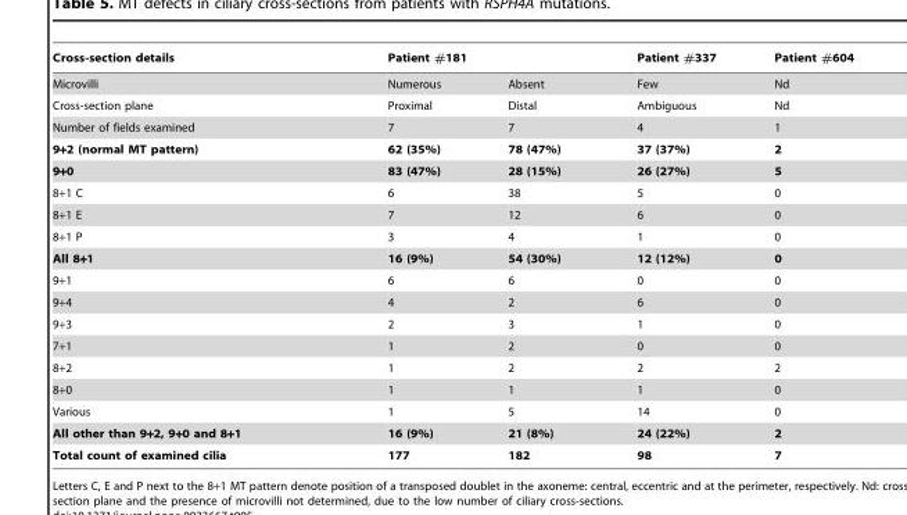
<table><thead><tr><td rowspan="2">Cross-section details Microvilli</td><td colspan="2">Patient #181</td><td rowspan="2">Patient #337 Few</td><td rowspan="2">Patient #604 Nd</td></tr><tr><td>Numerous</td><td>Absent</td></tr></thead><tbody><tr><td>Cross-section plane</td><td>Proximal</td><td>Distal</td><td>Ambiguous</td><td>Nd</td></tr><tr><td>Number of fields examined</td><td>7</td><td>7</td><td>4</td><td>1</td></tr><tr><td>9+2 (normal MT pattern)</td><td>62 (35%)</td><td>78 (47%)</td><td>37 (37%)</td><td>2</td></tr><tr><td>9+0</td><td>83 (47%)</td><td>28 (15%)</td><td>26 (27%)</td><td>5</td></tr><tr><td>8+1 C</td><td>6</td><td>38</td><td>5</td><td>0</td></tr><tr><td>8+1 E</td><td>7</td><td>12</td><td>6</td><td>0</td></tr><tr><td>8+1 P</td><td>3</td><td>4</td><td>1</td><td>0</td></tr><tr><td>All 8+1</td><td>16 (9%)</td><td>54 (30%)</td><td>12 (12%)</td><td>0</td></tr><tr><td>9+1</td><td>6</td><td>6</td><td>0</td><td>0</td></tr><tr><td>9+4</td><td>4</td><td>2</td><td>6</td><td>0</td></tr><tr><td>9+3</td><td>2</td><td>3</td><td>1</td><td>0</td></tr><tr><td>7+1</td><td>1</td><td>2</td><td>0</td><td>0</td></tr><tr><td>8+2</td><td>1</td><td>2</td><td>2</td><td>2</td></tr><tr><td>8+0</td><td>1</td><td>1</td><td>1</td><td>0</td></tr><tr><td>Various</td><td>1</td><td>5</td><td>14</td><td>0</td></tr><tr><td>All other than 9+2, 9+0 and 8+1</td><td>16 (9%)</td><td>21 (8%)</td><td>24 (22%)</td><td>2</td></tr><tr><td>Total count of examined cilia</td><td>177</td><td>182</td><td>98</td><td>7</td></tr></tbody></table>